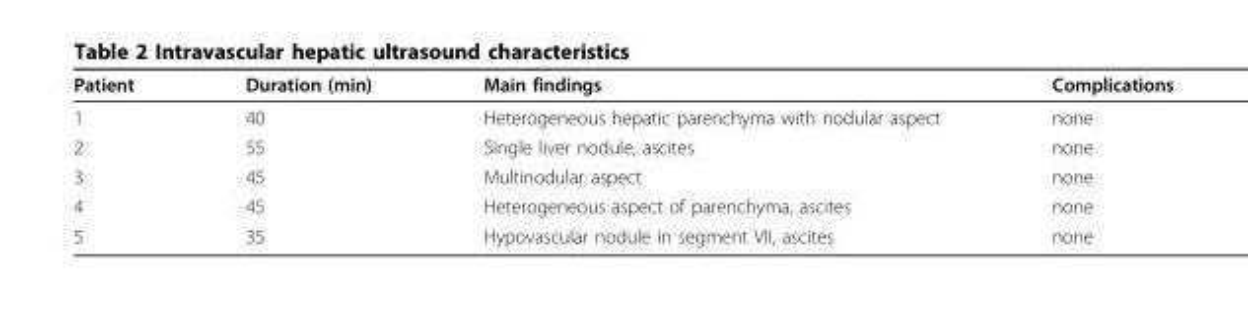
<table><thead><tr><td>Patient</td><td>Duration (min)</td><td>Main findings</td><td>Complications</td></tr></thead><tbody><tr><td>1</td><td>40</td><td>Heterogeneous hepatic parenchyma with nodular aspect</td><td>none</td></tr><tr><td>2</td><td>55</td><td>Single liver nodule, ascites</td><td>none</td></tr><tr><td>3</td><td>45</td><td>Multinodular aspect</td><td>none</td></tr><tr><td>4</td><td>45</td><td>Heterogeneous aspect of parenchyma, ascites</td><td>none</td></tr><tr><td>5</td><td>35</td><td>Hypovascular nodule in segment VII, ascites</td><td>none</td></tr></tbody></table>